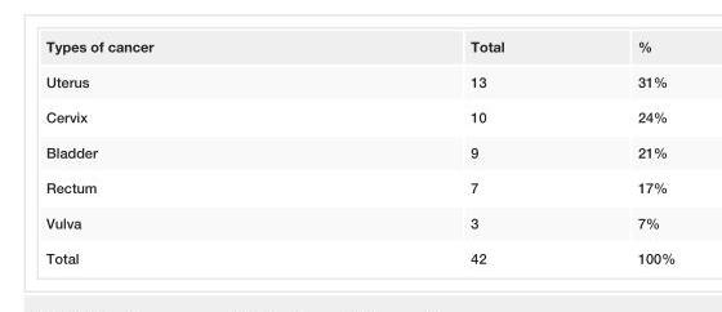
<table><tbody><tr><td>Types of cancer</td><td>Total</td><td>%</td></tr><tr><td>Uterus</td><td>13</td><td>31%</td></tr><tr><td>Cervix</td><td>10</td><td>24%</td></tr><tr><td>Bladder</td><td>9</td><td>21%</td></tr><tr><td>Rectum</td><td>7</td><td>17%</td></tr><tr><td>Vulva</td><td>3</td><td>7%</td></tr><tr><td>Total</td><td>42</td><td>100%</td></tr></tbody></table>